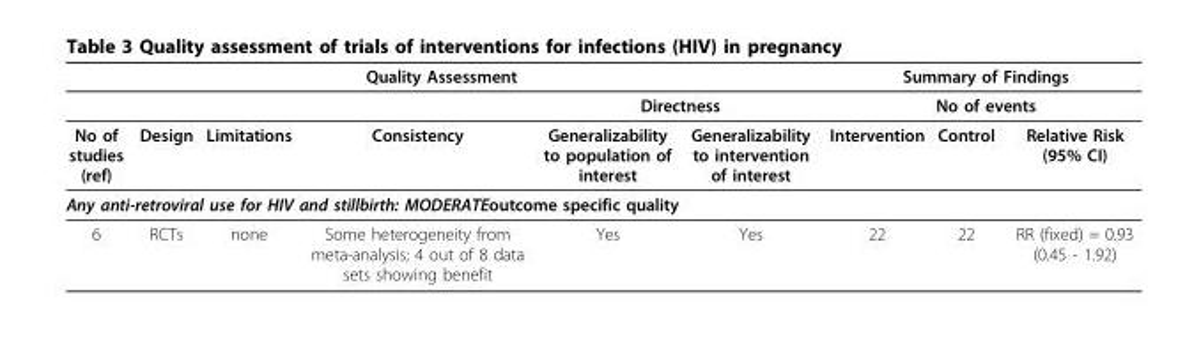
<table><thead><tr><td colspan="6">Quality Assessment</td><td rowspan="2" colspan="3">Summary of Findings No of events</td></tr><tr><td rowspan="2">No of studies (ref)</td><td rowspan="2">Design</td><td rowspan="2">Limitations</td><td rowspan="2">Consistency</td><td colspan="2">Directness</td></tr><tr><td>Generalizability to population of interest</td><td>Generalizability to intervention of interest</td><td>Intervention</td><td>Control</td><td>Relative Risk (95% CI)</td></tr></thead><tbody><tr><td colspan="9">Any anti-retroviral use for HIV and stillbirth: MODERATEoutcome specific quality</td></tr><tr><td>6</td><td>RCTs</td><td>none</td><td>Some heterogeneity from meta-analysis; 4 out of 8 data sets showing benefit</td><td>Yes</td><td>Yes</td><td>22</td><td>22</td><td>RR (fixed) = 0.93 (0.45 - 1.92)</td></tr></tbody></table>